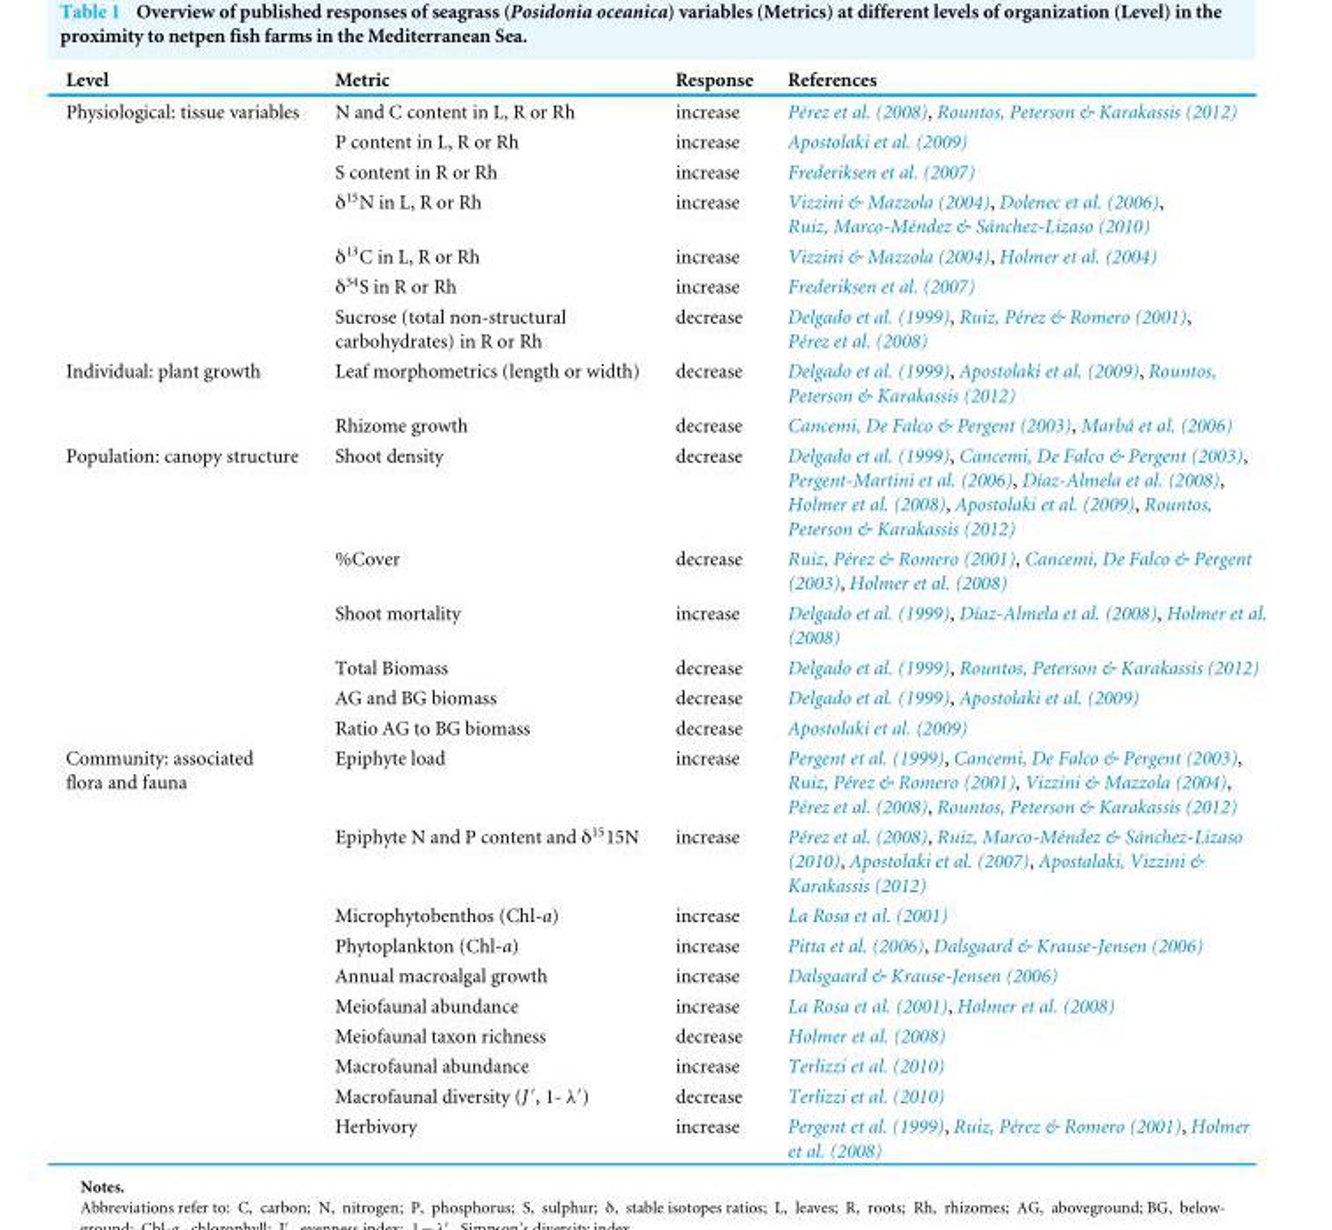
<table><thead><tr><td>Level</td><td>Metric</td><td>Response</td><td>References</td></tr></thead><tbody><tr><td rowspan="7">Physiological: tissue variables</td><td>N and C content in L, R or Rh</td><td>increase</td><td>Pérez et al. (2008), Rountos, Peterson &amp; Karakassis (2012)</td></tr><tr><td>P content in L, R or Rh</td><td>increase</td><td>Apostolaki et al. (2009)</td></tr><tr><td>S content in R or Rh</td><td>increase</td><td>Frederiksen et al. (2007)</td></tr><tr><td>δ<sup>15</sup>N in L, R or Rh</td><td>increase</td><td>Vizzini &amp; Mazzola (2004), Dolenec et al. (2006), Ruiz, Marco-Méndez &amp; Sánchez-Lizaso (2010)</td></tr><tr><td>δ<sup>13</sup>C in L, R or Rh</td><td>increase</td><td>Vizzini &amp; Mazzola (2004), Holmer et al. (2004)</td></tr><tr><td>δ<sup>34</sup>S in R or Rh</td><td>increase</td><td>Frederiksen et al. (2007)</td></tr><tr><td>Sucrose (total non-structural carbohydrates) in R or Rh</td><td>decrease</td><td>Delgado et al. (1999), Ruiz, Pérez &amp; Romero (2001), Pérez et al. (2008)</td></tr><tr><td rowspan="2">Individual: plant growth</td><td>Leaf morphometrics (length or width)</td><td>decrease</td><td>Delgado et al. (1999), Apostolaki et al. (2009), Rountos, Peterson &amp; Karakassis (2012)</td></tr><tr><td>Rhizome growth</td><td>decrease</td><td>Cancemi, De Falco &amp; Pergent (2003), Marbá et al. (2006)</td></tr><tr><td rowspan="6">Population: canopy structure</td><td>Shoot density</td><td>decrease</td><td>Delgado et al. (1999), Cancemi, De Falco &amp; Pergent (2003), Pergent-Martini et al. (2006), Díaz-Almela et al. (2008), Holmer et al. (2008), Apostolaki et al. (2009), Rountos, Peterson &amp; Karakassis (2012)</td></tr><tr><td>%Cover</td><td>decrease</td><td>Ruiz, Pérez &amp; Romero (2001), Cancemi, De Falco &amp; Pergent (2003), Holmer et al. (2008)</td></tr><tr><td>Shoot mortality</td><td>increase</td><td>Delgado et al. (1999), Díaz-Almela et al. (2008), Holmer et al. (2008)</td></tr><tr><td>Total Biomass</td><td>decrease</td><td>Delgado et al. (1999), Rountos, Peterson &amp; Karakassis (2012)</td></tr><tr><td>AG and BG biomass</td><td>decrease</td><td>Delgado et al. (1999), Apostolaki et al. (2009)</td></tr><tr><td>Ratio AG to BG biomass</td><td>decrease</td><td>Apostolaki et al. (2009)</td></tr><tr><td rowspan="10">Community: associated flora and fauna</td><td>Epiphyte load</td><td>increase</td><td>Pergent et al. (1999), Cancemi, De Falco &amp; Pergent (2003), Ruiz, Pérez &amp; Romero (2001), Vizzini &amp; Mazzola (2004), Pérez et al. (2008), Rountos, Peterson &amp; Karakassis (2012)</td></tr><tr><td>Epiphyte N and P content and δ<sup>15</sup>15N</td><td>increase</td><td>Pérez et al. (2008), Ruiz, Marco-Méndez &amp; Sánchez-Lizaso (2010), Apostolaki et al. (2007), Apostalaki, Vizzini &amp; Karakassis (2012)</td></tr><tr><td>Microphytobenthos (Chl-a)</td><td>increase</td><td>La Rosa et al. (2001)</td></tr><tr><td>Phytoplankton (Chl-a)</td><td>increase</td><td>Pitta et al. (2006), Dalsgaard &amp; Krause-Jensen (2006)</td></tr><tr><td>Annual macroalgal growth</td><td>increase</td><td>Dalsgaard &amp; Krause-Jensen (2006)</td></tr><tr><td>Meiofaunal abundance</td><td>increase</td><td>La Rosa et al. (2001), Holmer et al. (2008)</td></tr><tr><td>Meiofaunal taxon richness</td><td>decrease</td><td>Holmer et al. (2008)</td></tr><tr><td>Macrofaunal abundance</td><td>increase</td><td>Terlizzi et al. (2010)</td></tr><tr><td>Macrofaunal diversity (J ′, 1- λ′)</td><td>decrease</td><td>Terlizzi et al. (2010)</td></tr><tr><td>Herbivory</td><td>increase</td><td>Pergent et al. (1999), Ruiz, Pérez &amp; Romero (2001), Holmer et al. (2008)</td></tr></tbody></table>